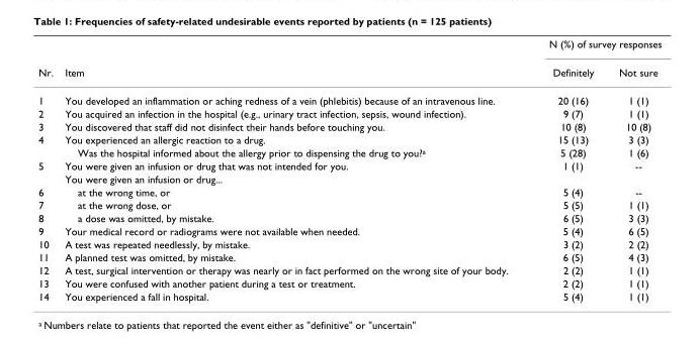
<table><thead><tr><td rowspan="2">Nr.</td><td rowspan="2">Item</td><td colspan="2">N (%) of survey responses</td></tr><tr><td>Definitely</td><td>Not sure</td></tr></thead><tbody><tr><td>1</td><td>You developed an inflammation or aching redness of a vein (phlebitis) because of an intravenous line.</td><td>20 (16)</td><td>1 (1)</td></tr><tr><td>2</td><td>You acquired an infection in the hospital (e.g., urinary tract infection, sepsis, wound infection).</td><td>9 (7)</td><td>1 (1)</td></tr><tr><td>3</td><td>You discovered that staff did not disinfect their hands before touching you.</td><td>10 (8)</td><td>10 (8)</td></tr><tr><td rowspan="2">4</td><td>You experienced an allergic reaction to a drug.</td><td>15 (13)</td><td>3 (3)</td></tr><tr><td>Was the hospital informed about the allergy prior to dispensing the drug to you?<sup>a</sup></td><td>5 (28)</td><td>1 (6)</td></tr><tr><td rowspan="2">5</td><td>You were given an infusion or drug that was not intended for you.</td><td>1 (1)</td><td>--</td></tr><tr><td>You were given an infusion or drug...</td><td></td><td></td></tr><tr><td>6</td><td>at the wrong time, or</td><td>5 (4)</td><td>--</td></tr><tr><td>7</td><td>at the wrong dose, or</td><td>5 (5)</td><td>1 (1)</td></tr><tr><td>8</td><td>a dose was omitted, by mistake.</td><td>6 (5)</td><td>3 (3)</td></tr><tr><td>9</td><td>Your medical record or radiograms were not available when needed.</td><td>5 (4)</td><td>6 (5)</td></tr><tr><td>10</td><td>A test was repeated needlessly, by mistake.</td><td>3 (2)</td><td>2 (2)</td></tr><tr><td>11</td><td>A planned test was omitted, by mistake.</td><td>6 (5)</td><td>4 (3)</td></tr><tr><td>12</td><td>A test, surgical intervention or therapy was nearly or in fact performed on the wrong site of your body.</td><td>2 (2)</td><td>1 (1)</td></tr><tr><td>13</td><td>You were confused with another patient during a test or treatment.</td><td>2 (2)</td><td>1 (1)</td></tr><tr><td>14</td><td>You experienced a fall in hospital.</td><td>5 (4)</td><td>1 (1)</td></tr></tbody></table>